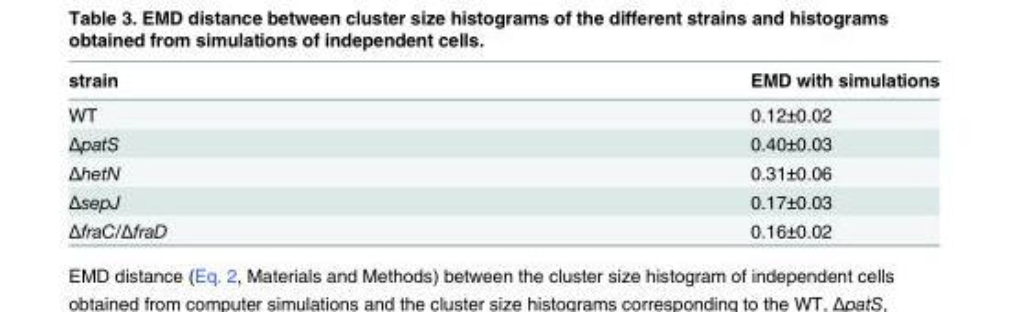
<table><thead><tr><td>strain</td><td>EMD with simulations</td></tr></thead><tbody><tr><td>WT</td><td>0.12±0.02</td></tr><tr><td>ΔpatS</td><td>0.40±0.03</td></tr><tr><td>ΔhetN</td><td>0.31±0.06</td></tr><tr><td>ΔsepJ</td><td>0.17±0.03</td></tr><tr><td>ΔfraC/ΔfraD</td><td>0.16±0.02</td></tr></tbody></table>